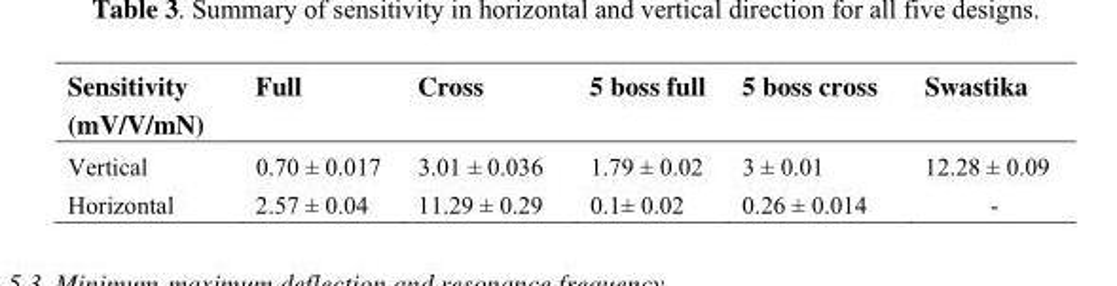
<table><thead><tr><td>Sensitivity (mV/V/mN)</td><td>Full</td><td>Cross</td><td>5 boss full</td><td>5 boss cross</td><td>Swastika</td></tr></thead><tbody><tr><td>Vertical</td><td>0.70 ± 0.017</td><td>3.01 ± 0.036</td><td>1.79 ± 0.02</td><td>3 ± 0.01</td><td>12.28 ± 0.09</td></tr><tr><td>Horizontal</td><td>2.57 ± 0.04</td><td>11.29 ± 0.29</td><td>0.1± 0.02</td><td>0.26 ± 0.014</td><td>-</td></tr></tbody></table>